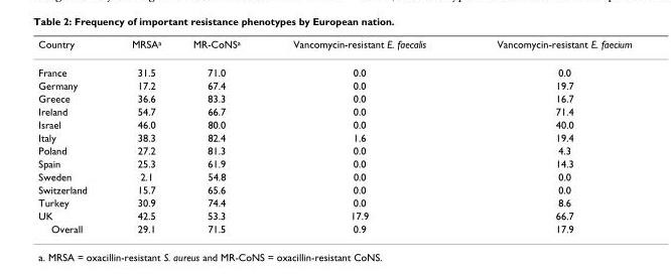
<table><thead><tr><td>Country</td><td>MRSA<sup>a</sup></td><td>MR-CoNS<sup>a</sup></td><td>Vancomycin-resistant E. faecalis</td><td>Vancomycin-resistant E. faecium</td></tr></thead><tbody><tr><td>France</td><td>31.5</td><td>71.0</td><td>0.0</td><td>0.0</td></tr><tr><td>Germany</td><td>17.2</td><td>67.4</td><td>0.0</td><td>19.7</td></tr><tr><td>Greece</td><td>36.6</td><td>83.3</td><td>0.0</td><td>16.7</td></tr><tr><td>Ireland</td><td>54.7</td><td>66.7</td><td>0.0</td><td>71.4</td></tr><tr><td>Israel</td><td>46.0</td><td>80.0</td><td>0.0</td><td>40.0</td></tr><tr><td>Italy</td><td>38.3</td><td>82.4</td><td>1.6</td><td>19.4</td></tr><tr><td>Poland</td><td>27.2</td><td>81.3</td><td>0.0</td><td>4.3</td></tr><tr><td>Spain</td><td>25.3</td><td>61.9</td><td>0.0</td><td>14.3</td></tr><tr><td>Sweden</td><td>2.1</td><td>54.8</td><td>0.0</td><td>0.0</td></tr><tr><td>Switzerland</td><td>15.7</td><td>65.6</td><td>0.0</td><td>0.0</td></tr><tr><td>Turkey</td><td>30.9</td><td>74.4</td><td>0.0</td><td>8.6</td></tr><tr><td>UK</td><td>42.5</td><td>53.3</td><td>17.9</td><td>66.7</td></tr><tr><td>Overall</td><td>29.1</td><td>71.5</td><td>0.9</td><td>17.9</td></tr></tbody></table>